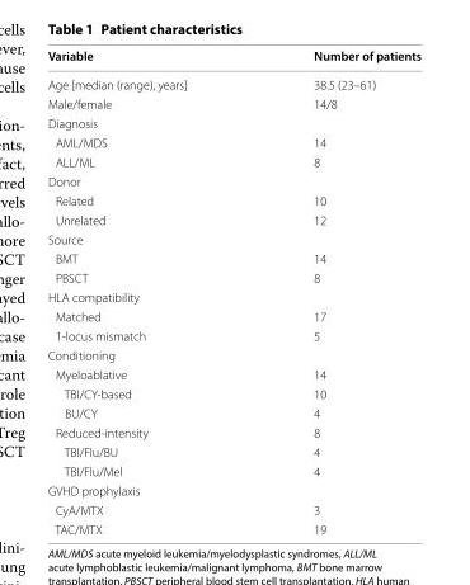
<table><thead><tr><td>Variable</td><td>Number of patients</td></tr></thead><tbody><tr><td>Age [median (range), years]</td><td>38.5 (23–61)</td></tr><tr><td>Male/female</td><td>14/8</td></tr><tr><td colspan="2">Diagnosis</td></tr><tr><td>AML/MDS</td><td>14</td></tr><tr><td>ALL/ML</td><td>8</td></tr><tr><td colspan="2">Donor</td></tr><tr><td>Related</td><td>10</td></tr><tr><td>Unrelated</td><td>12</td></tr><tr><td colspan="2">Source</td></tr><tr><td>BMT</td><td>14</td></tr><tr><td>PBSCT</td><td>8</td></tr><tr><td colspan="2">HLA compatibility</td></tr><tr><td>Matched</td><td>17</td></tr><tr><td>1‑locus mismatch</td><td>5</td></tr><tr><td colspan="2">Conditioning</td></tr><tr><td>Myeloablative</td><td>14</td></tr><tr><td>TBI/CY‑based</td><td>10</td></tr><tr><td>BU/CY</td><td>4</td></tr><tr><td>Reduced‑intensity</td><td>8</td></tr><tr><td>TBI/Flu/BU</td><td>4</td></tr><tr><td>TBI/Flu/Mel</td><td>4</td></tr><tr><td colspan="2">GVHD prophylaxis</td></tr><tr><td>CyA/MTX</td><td>3</td></tr><tr><td>TAC/MTX</td><td>19</td></tr></tbody></table>